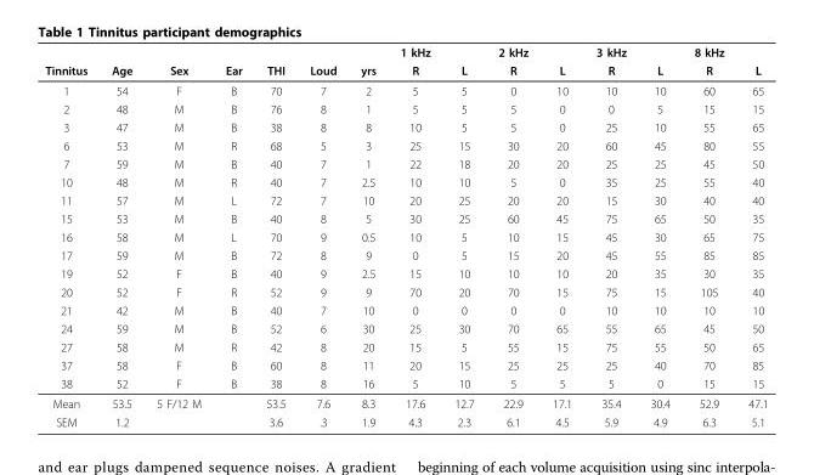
<table><thead><tr><td rowspan="2">Tinnitus</td><td rowspan="2">Age</td><td rowspan="2">Sex</td><td rowspan="2">Ear</td><td rowspan="2">THI</td><td rowspan="2">Loud</td><td rowspan="2">yrs</td><td rowspan="2">1 kHz R</td><td rowspan="2">L</td><td rowspan="2">2 kHz R</td><td rowspan="2">L</td><td rowspan="2">3 kHz R</td><td rowspan="2">L</td><td rowspan="2">8 kHz R</td><td rowspan="2">L</td></tr><tr></tr></thead><tbody><tr><td>1</td><td>54</td><td>F</td><td>B</td><td>70</td><td>7</td><td>2</td><td>5</td><td>5</td><td>0</td><td>10</td><td>10</td><td>10</td><td>60</td><td>65</td></tr><tr><td>2</td><td>48</td><td>M</td><td>B</td><td>76</td><td>8</td><td>1</td><td>5</td><td>5</td><td>5</td><td>0</td><td>0</td><td>5</td><td>15</td><td>15</td></tr><tr><td>3</td><td>47</td><td>M</td><td>B</td><td>38</td><td>8</td><td>8</td><td>10</td><td>5</td><td>5</td><td>0</td><td>25</td><td>10</td><td>55</td><td>65</td></tr><tr><td>6</td><td>53</td><td>M</td><td>R</td><td>68</td><td>5</td><td>3</td><td>25</td><td>15</td><td>30</td><td>20</td><td>60</td><td>45</td><td>80</td><td>55</td></tr><tr><td>7</td><td>59</td><td>M</td><td>B</td><td>40</td><td>7</td><td>1</td><td>22</td><td>18</td><td>20</td><td>20</td><td>25</td><td>25</td><td>45</td><td>50</td></tr><tr><td>10</td><td>48</td><td>M</td><td>R</td><td>40</td><td>7</td><td>2.5</td><td>10</td><td>10</td><td>5</td><td>0</td><td>35</td><td>25</td><td>55</td><td>40</td></tr><tr><td>11</td><td>57</td><td>M</td><td>L</td><td>72</td><td>7</td><td>10</td><td>20</td><td>25</td><td>20</td><td>20</td><td>15</td><td>30</td><td>40</td><td>40</td></tr><tr><td>15</td><td>53</td><td>M</td><td>B</td><td>40</td><td>8</td><td>5</td><td>30</td><td>25</td><td>60</td><td>45</td><td>75</td><td>65</td><td>50</td><td>35</td></tr><tr><td>16</td><td>58</td><td>M</td><td>L</td><td>70</td><td>9</td><td>0.5</td><td>10</td><td>5</td><td>10</td><td>15</td><td>45</td><td>30</td><td>65</td><td>75</td></tr><tr><td>17</td><td>59</td><td>M</td><td>B</td><td>72</td><td>8</td><td>9</td><td>0</td><td>5</td><td>15</td><td>20</td><td>45</td><td>55</td><td>85</td><td>85</td></tr><tr><td>19</td><td>52</td><td>F</td><td>B</td><td>40</td><td>9</td><td>2.5</td><td>15</td><td>10</td><td>10</td><td>10</td><td>20</td><td>35</td><td>30</td><td>35</td></tr><tr><td>20</td><td>52</td><td>F</td><td>R</td><td>52</td><td>9</td><td>9</td><td>70</td><td>20</td><td>70</td><td>15</td><td>75</td><td>15</td><td>105</td><td>40</td></tr><tr><td>21</td><td>42</td><td>M</td><td>B</td><td>40</td><td>7</td><td>10</td><td>0</td><td>0</td><td>0</td><td>0</td><td>10</td><td>10</td><td>10</td><td>10</td></tr><tr><td>24</td><td>59</td><td>M</td><td>B</td><td>52</td><td>6</td><td>30</td><td>25</td><td>30</td><td>70</td><td>65</td><td>55</td><td>65</td><td>45</td><td>50</td></tr><tr><td>27</td><td>58</td><td>M</td><td>R</td><td>42</td><td>8</td><td>20</td><td>15</td><td>5</td><td>55</td><td>15</td><td>75</td><td>55</td><td>50</td><td>65</td></tr><tr><td>37</td><td>58</td><td>F</td><td>B</td><td>60</td><td>8</td><td>11</td><td>20</td><td>15</td><td>25</td><td>25</td><td>25</td><td>40</td><td>70</td><td>85</td></tr><tr><td>38</td><td>52</td><td>F</td><td>B</td><td>38</td><td>8</td><td>16</td><td>5</td><td>10</td><td>5</td><td>5</td><td>5</td><td>0</td><td>15</td><td>15</td></tr><tr><td>Mean</td><td>53.5</td><td>5 F/12 M</td><td></td><td>53.5</td><td>7.6</td><td>8.3</td><td>17.6</td><td>12.7</td><td>22.9</td><td>17.1</td><td>35.4</td><td>30.4</td><td>52.9</td><td>47.1</td></tr><tr><td>SEM</td><td>1.2</td><td></td><td></td><td>3.6</td><td>.3</td><td>1.9</td><td>4.3</td><td>2.3</td><td>6.1</td><td>4.5</td><td>5.9</td><td>4.9</td><td>6.3</td><td>5.1</td></tr></tbody></table>